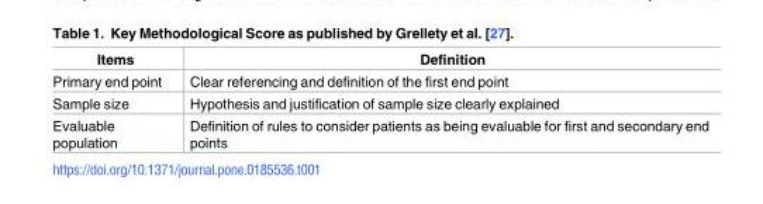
<table><thead><tr><td>Items</td><td>Definition</td></tr></thead><tbody><tr><td>Primary end point</td><td>Clear referencing and definition of the first end point</td></tr><tr><td>Sample size</td><td>Hypothesis and justification of sample size clearly explained</td></tr><tr><td>Evaluable population</td><td>Definition of rules to consider patients as being evaluable for first and secondary end points</td></tr></tbody></table>